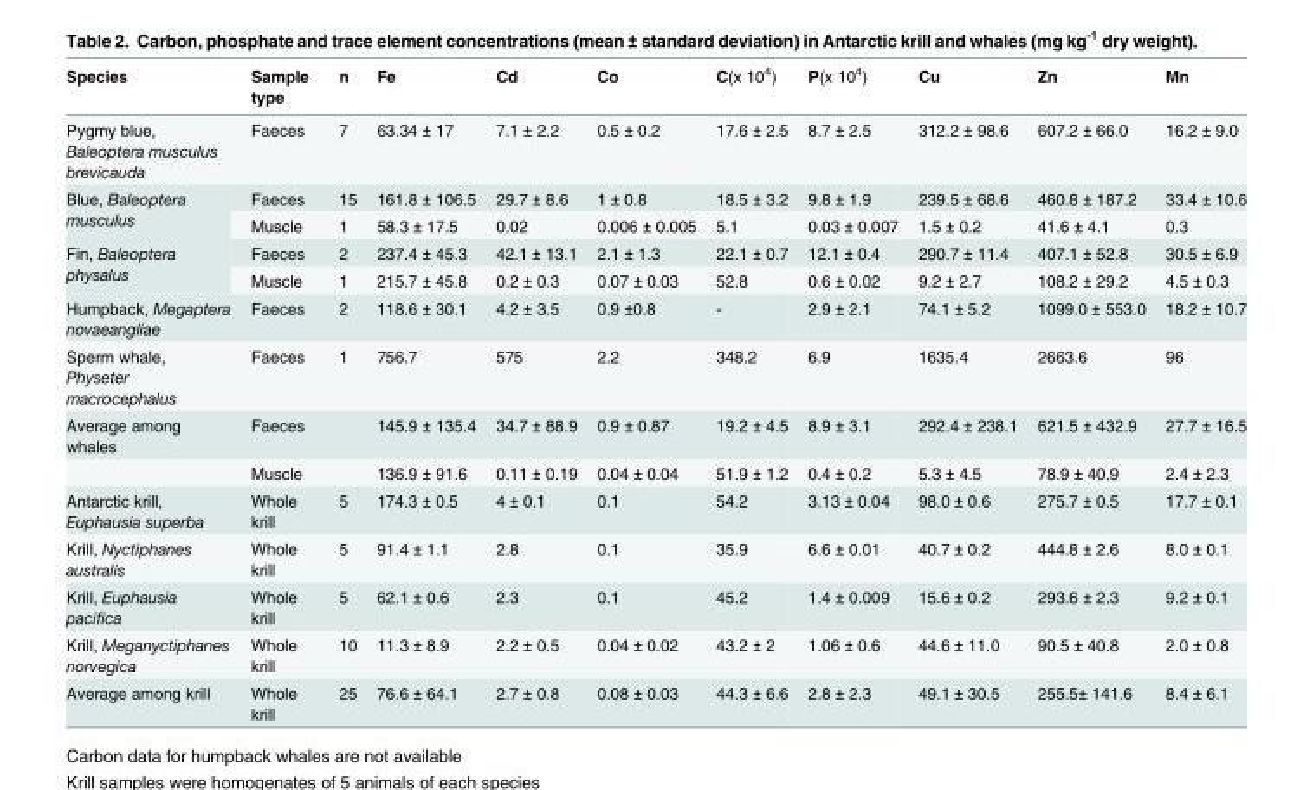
<table><thead><tr><td>Species</td><td>Sample type</td><td>n</td><td>Fe</td><td>Cd</td><td>Co</td><td>C(x 10<sup>4</sup>)</td><td>P(x 10<sup>4</sup>)</td><td>Cu</td><td>Zn</td><td>Mn</td></tr></thead><tbody><tr><td>Pygmy blue, Baleoptera musculus brevicauda</td><td>Faeces</td><td>7</td><td>63.34 ± 17</td><td>7.1 ± 2.2</td><td>0.5 ± 0.2</td><td>17.6 ± 2.5</td><td>8.7 ± 2.5</td><td>312.2 ± 98.6</td><td>607.2 ± 66.0</td><td>16.2 ± 9.0</td></tr><tr><td rowspan="2">Blue, Baleoptera musculus</td><td>Faeces</td><td>15</td><td>161.8 ± 106.5</td><td>29.7 ± 8.6</td><td>1 ± 0.8</td><td>18.5 ± 3.2</td><td>9.8 ± 1.9</td><td>239.5 ± 68.6</td><td>460.8 ± 187.2</td><td>33.4 ± 10.6</td></tr><tr><td>Muscle</td><td>1</td><td>58.3 ± 17.5</td><td>0.02</td><td>0.006 ± 0.005</td><td>5.1</td><td>0.03 ± 0.007</td><td>1.5 ± 0.2</td><td>41.6 ± 4.1</td><td>0.3</td></tr><tr><td rowspan="2">Fin, Baleoptera physalus</td><td>Faeces</td><td>2</td><td>237.4 ± 45.3</td><td>42.1 ± 13.1</td><td>2.1 ± 1.3</td><td>22.1 ± 0.7</td><td>12.1 ± 0.4</td><td>290.7 ± 11.4</td><td>407.1 ± 52.8</td><td>30.5 ± 6.9</td></tr><tr><td>Muscle</td><td>1</td><td>215.7 ± 45.8</td><td>0.2 ± 0.3</td><td>0.07 ± 0.03</td><td>52.8</td><td>0.6 ± 0.02</td><td>9.2 ± 2.7</td><td>108.2 ± 29.2</td><td>4.5 ± 0.3</td></tr><tr><td>Humpback, Megaptera novaeangliae</td><td>Faeces</td><td>2</td><td>118.6 ± 30.1</td><td>4.2 ± 3.5</td><td>0.9 ±0.8</td><td>-</td><td>2.9 ± 2.1</td><td>74.1 ± 5.2</td><td>1099.0 ± 553.0</td><td>18.2 ± 10.7</td></tr><tr><td>Sperm whale, Physeter macrocephalus</td><td>Faeces</td><td>1</td><td>756.7</td><td>575</td><td>2.2</td><td>348.2</td><td>6.9</td><td>1635.4</td><td>2663.6</td><td>96</td></tr><tr><td rowspan="2">Average among whales</td><td>Faeces</td><td></td><td>145.9 ± 135.4</td><td>34.7 ± 88.9</td><td>0.9 ± 0.87</td><td>19.2 ± 4.5</td><td>8.9 ± 3.1</td><td>292.4 ± 238.1</td><td>621.5 ± 432.9</td><td>27.7 ± 16.5</td></tr><tr><td>Muscle</td><td></td><td>136.9 ± 91.6</td><td>0.11 ± 0.19</td><td>0.04 ± 0.04</td><td>51.9 ± 1.2</td><td>0.4 ± 0.2</td><td>5.3 ± 4.5</td><td>78.9 ± 40.9</td><td>2.4 ± 2.3</td></tr><tr><td>Antarctic krill, Euphausia superba</td><td>Whole krill</td><td>5</td><td>174.3 ± 0.5</td><td>4 ± 0.1</td><td>0.1</td><td>54.2</td><td>3.13 ± 0.04</td><td>98.0 ± 0.6</td><td>275.7 ± 0.5</td><td>17.7 ± 0.1</td></tr><tr><td>Krill, Nyctiphanes australis</td><td>Whole krill</td><td>5</td><td>91.4 ± 1.1</td><td>2.8</td><td>0.1</td><td>35.9</td><td>6.6 ± 0.01</td><td>40.7 ± 0.2</td><td>444.8 ± 2.6</td><td>8.0 ± 0.1</td></tr><tr><td>Krill, Euphausia pacifica</td><td>Whole krill</td><td>5</td><td>62.1 ± 0.6</td><td>2.3</td><td>0.1</td><td>45.2</td><td>1.4 ± 0.009</td><td>15.6 ± 0.2</td><td>293.6 ± 2.3</td><td>9.2 ± 0.1</td></tr><tr><td>Krill, Meganyctiphanes norvegica</td><td>Whole krill</td><td>10</td><td>11.3 ± 8.9</td><td>2.2 ± 0.5</td><td>0.04 ± 0.02</td><td>43.2 ± 2</td><td>1.06 ± 0.6</td><td>44.6 ± 11.0</td><td>90.5 ± 40.8</td><td>2.0 ± 0.8</td></tr><tr><td>Average among krill</td><td>Whole krill</td><td>25</td><td>76.6 ± 64.1</td><td>2.7 ± 0.8</td><td>0.08 ± 0.03</td><td>44.3 ± 6.6</td><td>2.8 ± 2.3</td><td>49.1 ± 30.5</td><td>255.5± 141.6</td><td>8.4 ± 6.1</td></tr></tbody></table>